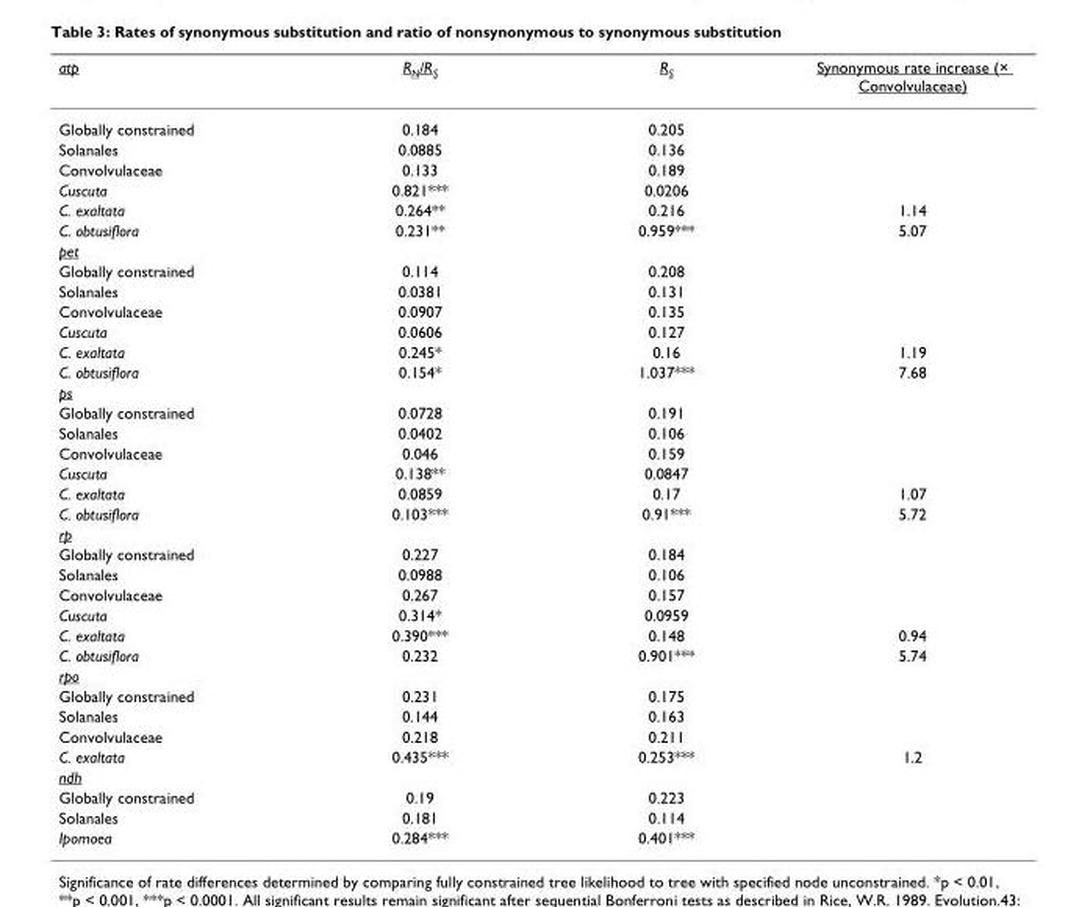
<table><thead><tr><td>atp</td><td>R<sub>N</sub>/R<sub>S</sub></td><td>R<sub>S</sub></td><td>Synonymous rate increase (× Convolvulaceae)</td></tr></thead><tbody><tr><td>Globally constrained</td><td>0.184</td><td>0.205</td><td></td></tr><tr><td>Solanales</td><td>0.0885</td><td>0.136</td><td></td></tr><tr><td>Convolvulaceae</td><td>0.133</td><td>0.189</td><td></td></tr><tr><td>Cuscuta</td><td>0.821***</td><td>0.0206</td><td></td></tr><tr><td>C. exaltata</td><td>0.264**</td><td>0.216</td><td>1.14</td></tr><tr><td>C. obtusiflora</td><td>0.231**</td><td>0.959***</td><td>5.07</td></tr><tr><td colspan="4">pet</td></tr><tr><td>Globally constrained</td><td>0.114</td><td>0.208</td><td></td></tr><tr><td>Solanales</td><td>0.0381</td><td>0.131</td><td></td></tr><tr><td>Convolvulaceae</td><td>0.0907</td><td>0.135</td><td></td></tr><tr><td>Cuscuta</td><td>0.0606</td><td>0.127</td><td></td></tr><tr><td>C. exaltata</td><td>0.245*</td><td>0.16</td><td>1.19</td></tr><tr><td>C. obtusiflora</td><td>0.154*</td><td>1.037***</td><td>7.68</td></tr><tr><td colspan="4">ps</td></tr><tr><td>Globally constrained</td><td>0.0728</td><td>0.191</td><td></td></tr><tr><td>Solanales</td><td>0.0402</td><td>0.106</td><td></td></tr><tr><td>Convolvulaceae</td><td>0.046</td><td>0.159</td><td></td></tr><tr><td>Cuscuta</td><td>0.138**</td><td>0.0847</td><td></td></tr><tr><td>C. exaltata</td><td>0.0859</td><td>0.17</td><td>1.07</td></tr><tr><td>C. obtusiflora</td><td>0.103***</td><td>0.91***</td><td>5.72</td></tr><tr><td colspan="4">rp</td></tr><tr><td>Globally constrained</td><td>0.227</td><td>0.184</td><td></td></tr><tr><td>Solanales</td><td>0.0988</td><td>0.106</td><td></td></tr><tr><td>Convolvulaceae</td><td>0.267</td><td>0.157</td><td></td></tr><tr><td>Cuscuta</td><td>0.314*</td><td>0.0959</td><td></td></tr><tr><td>C. exaltata</td><td>0.390***</td><td>0.148</td><td>0.94</td></tr><tr><td>C. obtusiflora</td><td>0.232</td><td>0.901***</td><td>5.74</td></tr><tr><td colspan="4">rpo</td></tr><tr><td>Globally constrained</td><td>0.231</td><td>0.175</td><td></td></tr><tr><td>Solanales</td><td>0.144</td><td>0.163</td><td></td></tr><tr><td>Convolvulaceae</td><td>0.218</td><td>0.211</td><td></td></tr><tr><td>C. exaltata</td><td>0.435***</td><td>0.253***</td><td>1.2</td></tr><tr><td colspan="4">ndh</td></tr><tr><td>Globally constrained</td><td>0.19</td><td>0.223</td><td></td></tr><tr><td>Solanales</td><td>0.181</td><td>0.114</td><td></td></tr><tr><td>Ipomoea</td><td>0.284***</td><td>0.401***</td><td></td></tr></tbody></table>